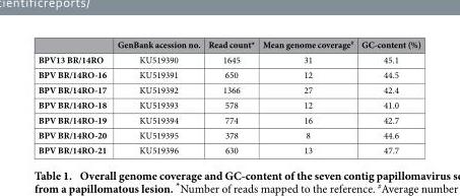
<table><thead><tr><td></td><td>GenBank acession no.</td><td>Read count*</td><td>Mean genome coverage#</td><td>GC-content (%)</td></tr></thead><tbody><tr><td>BPV13 BR/14RO</td><td>KU519390</td><td>1645</td><td>31</td><td>45.1</td></tr><tr><td>BPV BR/14RO-16</td><td>KU519391</td><td>650</td><td>12</td><td>44.5</td></tr><tr><td>BPV BR/14RO-17</td><td>KU519392</td><td>1366</td><td>27</td><td>42.4</td></tr><tr><td>BPV BR/14RO-18</td><td>KU519393</td><td>578</td><td>12</td><td>41.0</td></tr><tr><td>BPV BR/14RO-19</td><td>KU519394</td><td>774</td><td>16</td><td>42.7</td></tr><tr><td>BPV BR/14RO-20</td><td>KU519395</td><td>378</td><td>8</td><td>44.6</td></tr><tr><td>BPV BR/14RO-21</td><td>KU519396</td><td>630</td><td>13</td><td>47.7</td></tr></tbody></table>